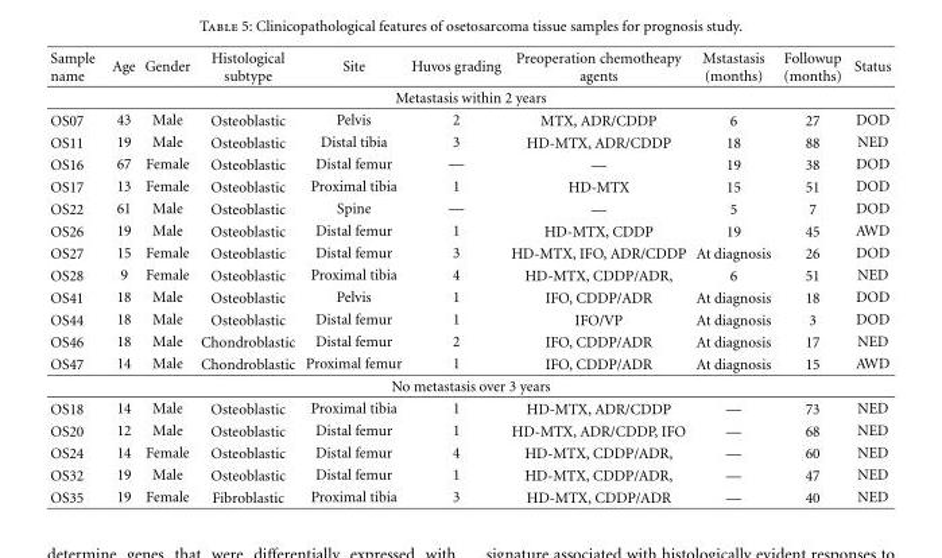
<table><thead><tr><td>Sample name</td><td>Age</td><td>Gender</td><td>Histological subtype</td><td>Site</td><td>Huvos grading</td><td>Preoperation chemotheapy agents</td><td>Mstastasis (months)</td><td>Followup (months)</td><td>Status</td></tr></thead><tbody><tr><td colspan="10">Metastasis within 2 years</td></tr><tr><td>OS07</td><td>43</td><td>Male</td><td>Osteoblastic</td><td>Pelvis</td><td>2</td><td>MTX, ADR/CDDP</td><td>6</td><td>27</td><td>DOD</td></tr><tr><td>OS11</td><td>19</td><td>Male</td><td>Osteoblastic</td><td>Distal tibia</td><td>3</td><td>HD-MTX, ADR/CDDP</td><td>18</td><td>88</td><td>NED</td></tr><tr><td>OS16</td><td>67</td><td>Female</td><td>Osteoblastic</td><td>Distal femur</td><td>—</td><td>—</td><td>19</td><td>38</td><td>DOD</td></tr><tr><td>OS17</td><td>13</td><td>Female</td><td>Osteoblastic</td><td>Proximal tibia</td><td>1</td><td>HD-MTX</td><td>15</td><td>51</td><td>DOD</td></tr><tr><td>OS22</td><td>61</td><td>Male</td><td>Osteoblastic</td><td>Spine</td><td>—</td><td>—</td><td>5</td><td>7</td><td>DOD</td></tr><tr><td>OS26</td><td>19</td><td>Male</td><td>Osteoblastic</td><td>Distal femur</td><td>1</td><td>HD-MTX, CDDP</td><td>19</td><td>45</td><td>AWD</td></tr><tr><td>OS27</td><td>15</td><td>Female</td><td>Osteoblastic</td><td>Distal femur</td><td>3</td><td>HD-MTX, IFO, ADR/CDDP</td><td>At diagnosis</td><td>26</td><td>DOD</td></tr><tr><td>OS28</td><td>9</td><td>Female</td><td>Osteoblastic</td><td>Proximal tibia</td><td>4</td><td>HD-MTX, CDDP/ADR,</td><td>6</td><td>51</td><td>NED</td></tr><tr><td>OS41</td><td>18</td><td>Male</td><td>Osteoblastic</td><td>Pelvis</td><td>1</td><td>IFO, CDDP/ADR</td><td>At diagnosis</td><td>18</td><td>DOD</td></tr><tr><td>OS44</td><td>18</td><td>Male</td><td>Osteoblastic</td><td>Distal femur</td><td>1</td><td>IFO/VP</td><td>At diagnosis</td><td>3</td><td>DOD</td></tr><tr><td>OS46</td><td>18</td><td>Male</td><td>Chondroblastic</td><td>Distal femur</td><td>2</td><td>IFO, CDDP/ADR</td><td>At diagnosis</td><td>17</td><td>NED</td></tr><tr><td>OS47</td><td>14</td><td>Male</td><td>Chondroblastic</td><td>Proximal femur</td><td>1</td><td>IFO, CDDP/ADR</td><td>At diagnosis</td><td>15</td><td>AWD</td></tr><tr><td colspan="10">No metastasis over 3 years</td></tr><tr><td>OS18</td><td>14</td><td>Male</td><td>Osteoblastic</td><td>Proximal tibia</td><td>1</td><td>HD-MTX, ADR/CDDP</td><td>—</td><td>73</td><td>NED</td></tr><tr><td>OS20</td><td>12</td><td>Male</td><td>Osteoblastic</td><td>Distal femur</td><td>1</td><td>HD-MTX, ADR/CDDP, IFO</td><td>—</td><td>68</td><td>NED</td></tr><tr><td>OS24</td><td>14</td><td>Female</td><td>Osteoblastic</td><td>Distal femur</td><td>4</td><td>HD-MTX, CDDP/ADR,</td><td>—</td><td>60</td><td>NED</td></tr><tr><td>OS32</td><td>19</td><td>Male</td><td>Osteoblastic</td><td>Distal femur</td><td>1</td><td>HD-MTX, CDDP/ADR,</td><td>—</td><td>47</td><td>NED</td></tr><tr><td>OS35</td><td>19</td><td>Female</td><td>Fibroblastic</td><td>Proximal tibia</td><td>3</td><td>HD-MTX, CDDP/ADR</td><td>—</td><td>40</td><td>NED</td></tr></tbody></table>